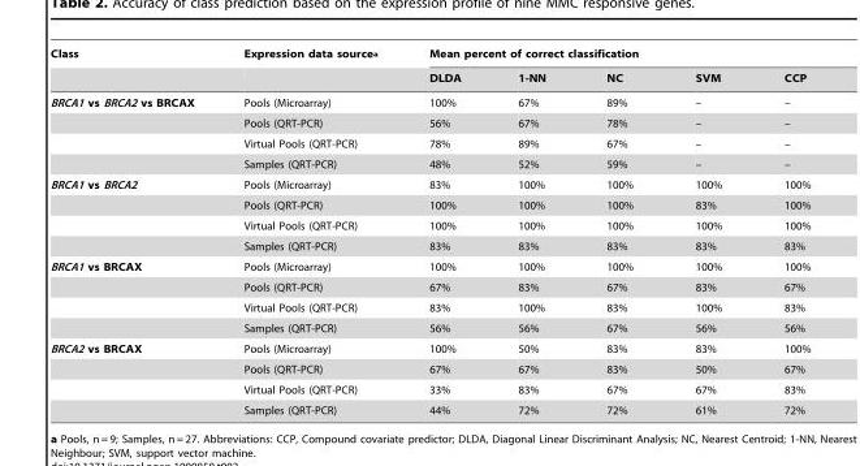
<table><thead><tr><td rowspan="2">Class</td><td rowspan="2">Expression data source<sup>a</sup></td><td colspan="5">Mean percent of correct classification</td></tr><tr><td>DLDA</td><td>1-NN</td><td>NC</td><td>SVM</td><td>CCP</td></tr></thead><tbody><tr><td rowspan="4">BRCA1 vs BRCA2 vs BRCAX</td><td>Pools (Microarray)</td><td>100%</td><td>67%</td><td>89%</td><td>–</td><td>–</td></tr><tr><td>Pools (QRT-PCR)</td><td>56%</td><td>67%</td><td>78%</td><td>–</td><td>–</td></tr><tr><td>Virtual Pools (QRT-PCR)</td><td>78%</td><td>89%</td><td>67%</td><td>–</td><td>–</td></tr><tr><td>Samples (QRT-PCR)</td><td>48%</td><td>52%</td><td>59%</td><td>–</td><td>–</td></tr><tr><td rowspan="4">BRCA1 vs BRCA2</td><td>Pools (Microarray)</td><td>83%</td><td>100%</td><td>100%</td><td>100%</td><td>100%</td></tr><tr><td>Pools (QRT-PCR)</td><td>100%</td><td>100%</td><td>100%</td><td>83%</td><td>100%</td></tr><tr><td>Virtual Pools (QRT-PCR)</td><td>100%</td><td>100%</td><td>100%</td><td>100%</td><td>100%</td></tr><tr><td>Samples (QRT-PCR)</td><td>83%</td><td>83%</td><td>83%</td><td>83%</td><td>83%</td></tr><tr><td rowspan="4">BRCA1 vs BRCAX</td><td>Pools (Microarray)</td><td>100%</td><td>100%</td><td>100%</td><td>100%</td><td>100%</td></tr><tr><td>Pools (QRT-PCR)</td><td>67%</td><td>83%</td><td>67%</td><td>83%</td><td>67%</td></tr><tr><td>Virtual Pools (QRT-PCR)</td><td>83%</td><td>100%</td><td>83%</td><td>100%</td><td>83%</td></tr><tr><td>Samples (QRT-PCR)</td><td>56%</td><td>56%</td><td>67%</td><td>56%</td><td>56%</td></tr><tr><td rowspan="4">BRCA2 vs BRCAX</td><td>Pools (Microarray)</td><td>100%</td><td>50%</td><td>83%</td><td>83%</td><td>100%</td></tr><tr><td>Pools (QRT-PCR)</td><td>67%</td><td>67%</td><td>83%</td><td>50%</td><td>67%</td></tr><tr><td>Virtual Pools (QRT-PCR)</td><td>33%</td><td>83%</td><td>67%</td><td>67%</td><td>83%</td></tr><tr><td>Samples (QRT-PCR)</td><td>44%</td><td>72%</td><td>72%</td><td>61%</td><td>72%</td></tr></tbody></table>